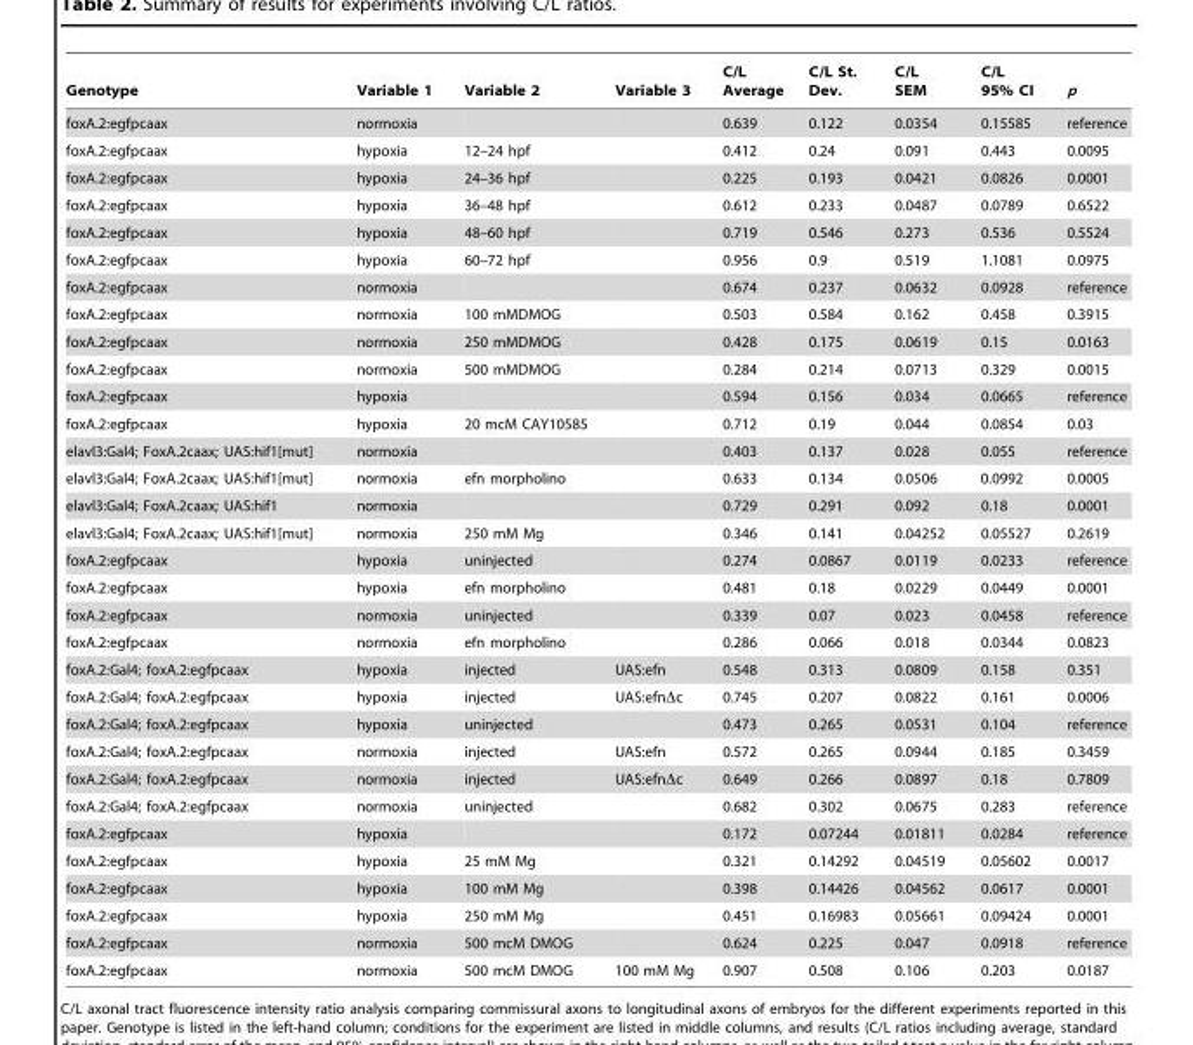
<table><thead><tr><td>Genotype</td><td>Variable 1</td><td>Variable 2</td><td>Variable 3</td><td>C/L Average</td><td>C/L St. Dev.</td><td>C/L SEM</td><td>C/L 95% CI</td><td>p</td></tr></thead><tbody><tr><td>foxA.2:egfpcaax</td><td>normoxia</td><td></td><td></td><td>0.639</td><td>0.122</td><td>0.0354</td><td>0.15585</td><td>reference</td></tr><tr><td>foxA.2:egfpcaax</td><td>hypoxia</td><td>12–24 hpf</td><td></td><td>0.412</td><td>0.24</td><td>0.091</td><td>0.443</td><td>0.0095</td></tr><tr><td>foxA.2:egfpcaax</td><td>hypoxia</td><td>24–36 hpf</td><td></td><td>0.225</td><td>0.193</td><td>0.0421</td><td>0.0826</td><td>0.0001</td></tr><tr><td>foxA.2:egfpcaax</td><td>hypoxia</td><td>36–48 hpf</td><td></td><td>0.612</td><td>0.233</td><td>0.0487</td><td>0.0789</td><td>0.6522</td></tr><tr><td>foxA.2:egfpcaax</td><td>hypoxia</td><td>48–60 hpf</td><td></td><td>0.719</td><td>0.546</td><td>0.273</td><td>0.536</td><td>0.5524</td></tr><tr><td>foxA.2:egfpcaax</td><td>hypoxia</td><td>60–72 hpf</td><td></td><td>0.956</td><td>0.9</td><td>0.519</td><td>1.1081</td><td>0.0975</td></tr><tr><td>foxA.2:egfpcaax</td><td>normoxia</td><td></td><td></td><td>0.674</td><td>0.237</td><td>0.0632</td><td>0.0928</td><td>reference</td></tr><tr><td>foxA.2:egfpcaax</td><td>normoxia</td><td>100 mMDMOG</td><td></td><td>0.503</td><td>0.584</td><td>0.162</td><td>0.458</td><td>0.3915</td></tr><tr><td>foxA.2:egfpcaax</td><td>normoxia</td><td>250 mMDMOG</td><td></td><td>0.428</td><td>0.175</td><td>0.0619</td><td>0.15</td><td>0.0163</td></tr><tr><td>foxA.2:egfpcaax</td><td>normoxia</td><td>500 mMDMOG</td><td></td><td>0.284</td><td>0.214</td><td>0.0713</td><td>0.329</td><td>0.0015</td></tr><tr><td>foxA.2:egfpcaax</td><td>hypoxia</td><td></td><td></td><td>0.594</td><td>0.156</td><td>0.034</td><td>0.0665</td><td>reference</td></tr><tr><td>foxA.2:egfpcaax</td><td>hypoxia</td><td>20 mcM CAY10585</td><td></td><td>0.712</td><td>0.19</td><td>0.044</td><td>0.0854</td><td>0.03</td></tr><tr><td>elavl3:Gal4; FoxA.2caax; UAS:hif1[mut]</td><td>normoxia</td><td></td><td></td><td>0.403</td><td>0.137</td><td>0.028</td><td>0.055</td><td>reference</td></tr><tr><td>elavl3:Gal4; FoxA.2caax; UAS:hif1[mut]</td><td>normoxia</td><td>efn morpholino</td><td></td><td>0.633</td><td>0.134</td><td>0.0506</td><td>0.0992</td><td>0.0005</td></tr><tr><td>elavl3:Gal4; FoxA.2caax; UAS:hif1</td><td>normoxia</td><td></td><td></td><td>0.729</td><td>0.291</td><td>0.092</td><td>0.18</td><td>0.0001</td></tr><tr><td>elavl3:Gal4; FoxA.2caax; UAS:hif1[mut]</td><td>normoxia</td><td>250 mM Mg</td><td></td><td>0.346</td><td>0.141</td><td>0.04252</td><td>0.05527</td><td>0.2619</td></tr><tr><td>foxA.2:egfpcaax</td><td>hypoxia</td><td>uninjected</td><td></td><td>0.274</td><td>0.0867</td><td>0.0119</td><td>0.0233</td><td>reference</td></tr><tr><td>foxA.2:egfpcaax</td><td>hypoxia</td><td>efn morpholino</td><td></td><td>0.481</td><td>0.18</td><td>0.0229</td><td>0.0449</td><td>0.0001</td></tr><tr><td>foxA.2:egfpcaax</td><td>normoxia</td><td>uninjected</td><td></td><td>0.339</td><td>0.07</td><td>0.023</td><td>0.0458</td><td>reference</td></tr><tr><td>foxA.2:egfpcaax</td><td>normoxia</td><td>efn morpholino</td><td></td><td>0.286</td><td>0.066</td><td>0.018</td><td>0.0344</td><td>0.0823</td></tr><tr><td>foxA.2:Gal4; foxA.2:egfpcaax</td><td>hypoxia</td><td>injected</td><td>UAS:efn</td><td>0.548</td><td>0.313</td><td>0.0809</td><td>0.158</td><td>0.351</td></tr><tr><td>foxA.2:Gal4; foxA.2:egfpcaax</td><td>hypoxia</td><td>injected</td><td>UAS:efnΔc</td><td>0.745</td><td>0.207</td><td>0.0822</td><td>0.161</td><td>0.0006</td></tr><tr><td>foxA.2:Gal4; foxA.2:egfpcaax</td><td>hypoxia</td><td>uninjected</td><td></td><td>0.473</td><td>0.265</td><td>0.0531</td><td>0.104</td><td>reference</td></tr><tr><td>foxA.2:Gal4; foxA.2:egfpcaax</td><td>normoxia</td><td>injected</td><td>UAS:efn</td><td>0.572</td><td>0.265</td><td>0.0944</td><td>0.185</td><td>0.3459</td></tr><tr><td>foxA.2:Gal4; foxA.2:egfpcaax</td><td>normoxia</td><td>injected</td><td>UAS:efnΔc</td><td>0.649</td><td>0.266</td><td>0.0897</td><td>0.18</td><td>0.7809</td></tr><tr><td>foxA.2:Gal4; foxA.2:egfpcaax</td><td>normoxia</td><td>uninjected</td><td></td><td>0.682</td><td>0.302</td><td>0.0675</td><td>0.283</td><td>reference</td></tr><tr><td>foxA.2:egfpcaax</td><td>hypoxia</td><td></td><td></td><td>0.172</td><td>0.07244</td><td>0.01811</td><td>0.0284</td><td>reference</td></tr><tr><td>foxA.2:egfpcaax</td><td>hypoxia</td><td>25 mM Mg</td><td></td><td>0.321</td><td>0.14292</td><td>0.04519</td><td>0.05602</td><td>0.0017</td></tr><tr><td>foxA.2:egfpcaax</td><td>hypoxia</td><td>100 mM Mg</td><td></td><td>0.398</td><td>0.14426</td><td>0.04562</td><td>0.0617</td><td>0.0001</td></tr><tr><td>foxA.2:egfpcaax</td><td>hypoxia</td><td>250 mM Mg</td><td></td><td>0.451</td><td>0.16983</td><td>0.05661</td><td>0.09424</td><td>0.0001</td></tr><tr><td>foxA.2:egfpcaax</td><td>normoxia</td><td>500 mcM DMOG</td><td></td><td>0.624</td><td>0.225</td><td>0.047</td><td>0.0918</td><td>reference</td></tr><tr><td>foxA.2:egfpcaax</td><td>normoxia</td><td>500 mcM DMOG</td><td>100 mM Mg</td><td>0.907</td><td>0.508</td><td>0.106</td><td>0.203</td><td>0.0187</td></tr></tbody></table>